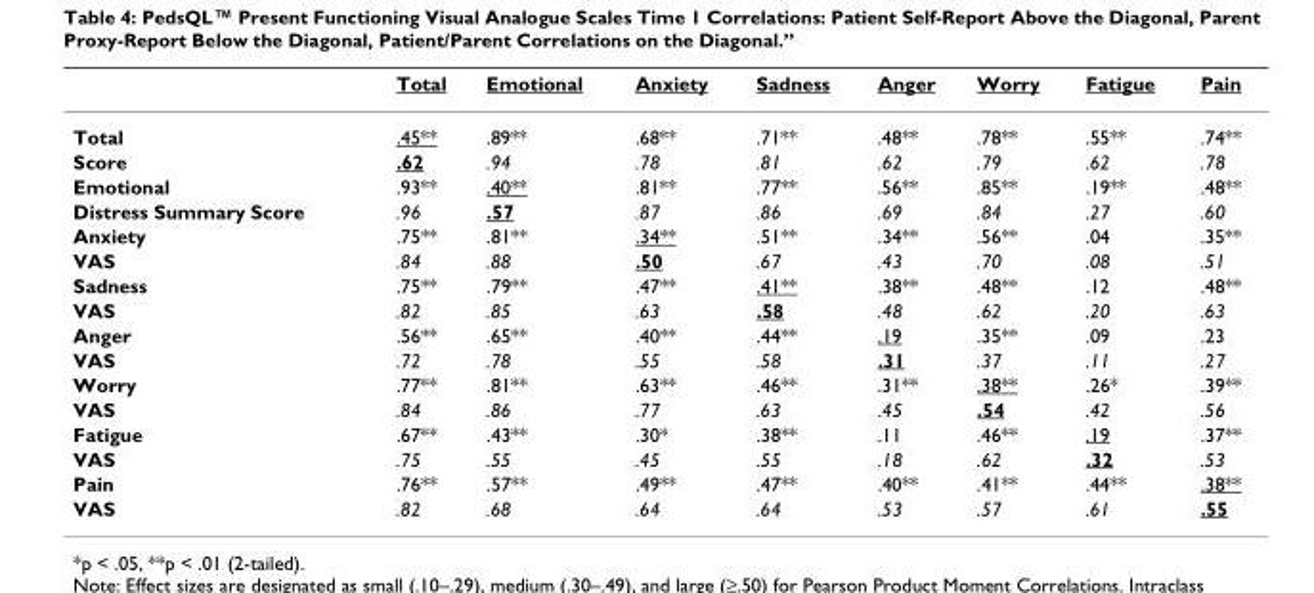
<table><thead><tr><td></td><td>Total</td><td>Emotional</td><td>Anxiety</td><td>Sadness</td><td>Anger</td><td>Worry</td><td>Fatigue</td><td>Pain</td></tr></thead><tbody><tr><td>Total</td><td>.45**</td><td>.89**</td><td>.68**</td><td>.71**</td><td>.48**</td><td>.78**</td><td>.55**</td><td>.74**</td></tr><tr><td>Score</td><td>.62</td><td>.94</td><td>.78</td><td>.81</td><td>.62</td><td>.79</td><td>.62</td><td>.78</td></tr><tr><td>Emotional</td><td>.93**</td><td>.40**</td><td>.81**</td><td>.77**</td><td>.56**</td><td>.85**</td><td>.19**</td><td>.48**</td></tr><tr><td>Distress Summary Score</td><td>.96</td><td>.57</td><td>.87</td><td>.86</td><td>.69</td><td>.84</td><td>.27</td><td>.60</td></tr><tr><td>Anxiety</td><td>.75**</td><td>.81**</td><td>.34**</td><td>.51**</td><td>.34**</td><td>.56**</td><td>.04</td><td>.35**</td></tr><tr><td>VAS</td><td>.84</td><td>.88</td><td>.50</td><td>.67</td><td>.43</td><td>.70</td><td>.08</td><td>.51</td></tr><tr><td>Sadness</td><td>.75**</td><td>.79**</td><td>.47**</td><td>.41**</td><td>.38**</td><td>.48**</td><td>.12</td><td>.48**</td></tr><tr><td>VAS</td><td>.82</td><td>.85</td><td>.63</td><td>.58</td><td>.48</td><td>.62</td><td>.20</td><td>.63</td></tr><tr><td>Anger</td><td>.56**</td><td>.65**</td><td>.40**</td><td>.44**</td><td>.19</td><td>.35**</td><td>.09</td><td>.23</td></tr><tr><td>VAS</td><td>.72</td><td>.78</td><td>.55</td><td>.58</td><td>.31</td><td>.37</td><td>.11</td><td>.27</td></tr><tr><td>Worry</td><td>.77**</td><td>.81**</td><td>.63**</td><td>.46**</td><td>.31**</td><td>.38**</td><td>.26*</td><td>.39**</td></tr><tr><td>VAS</td><td>.84</td><td>.86</td><td>.77</td><td>.63</td><td>.45</td><td>.54</td><td>.42</td><td>.56</td></tr><tr><td>Fatigue</td><td>.67**</td><td>.43**</td><td>.30*</td><td>.38**</td><td>.11</td><td>.46**</td><td>.19</td><td>.37**</td></tr><tr><td>VAS</td><td>.75</td><td>.55</td><td>.45</td><td>.55</td><td>.18</td><td>.62</td><td>.32</td><td>.53</td></tr><tr><td>Pain</td><td>.76**</td><td>.57**</td><td>.49**</td><td>.47**</td><td>.40**</td><td>.41**</td><td>.44**</td><td>.38**</td></tr><tr><td>VAS</td><td>.82</td><td>.68</td><td>.64</td><td>.64</td><td>.53</td><td>.57</td><td>.61</td><td>.55</td></tr></tbody></table>